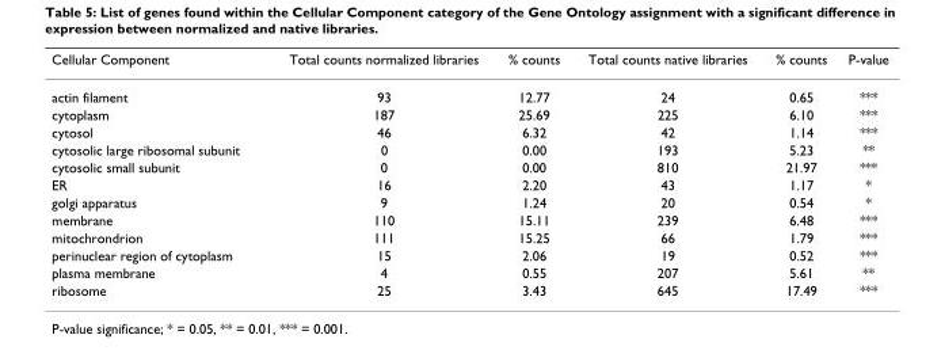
<table><thead><tr><td>Cellular Component</td><td>Total counts normalized libraries</td><td>% counts</td><td>Total counts native libraries</td><td>% counts</td><td>P-value</td></tr></thead><tbody><tr><td>actin filament</td><td>93</td><td>12.77</td><td>24</td><td>0.65</td><td>***</td></tr><tr><td>cytoplasm</td><td>187</td><td>25.69</td><td>225</td><td>6.10</td><td>***</td></tr><tr><td>cytosol</td><td>46</td><td>6.32</td><td>42</td><td>1.14</td><td>***</td></tr><tr><td>cytosolic large ribosomal subunit</td><td>0</td><td>0.00</td><td>193</td><td>5.23</td><td>**</td></tr><tr><td>cytosolic small subunit</td><td>0</td><td>0.00</td><td>810</td><td>21.97</td><td>***</td></tr><tr><td>ER</td><td>16</td><td>2.20</td><td>43</td><td>1.17</td><td>*</td></tr><tr><td>golgi apparatus</td><td>9</td><td>1.24</td><td>20</td><td>0.54</td><td>*</td></tr><tr><td>membrane</td><td>110</td><td>15.11</td><td>239</td><td>6.48</td><td>***</td></tr><tr><td>mitochrondrion</td><td>111</td><td>15.25</td><td>66</td><td>1.79</td><td>***</td></tr><tr><td>perinuclear region of cytoplasm</td><td>15</td><td>2.06</td><td>19</td><td>0.52</td><td>***</td></tr><tr><td>plasma membrane</td><td>4</td><td>0.55</td><td>207</td><td>5.61</td><td>**</td></tr><tr><td>ribosome</td><td>25</td><td>3.43</td><td>645</td><td>17.49</td><td>***</td></tr></tbody></table>